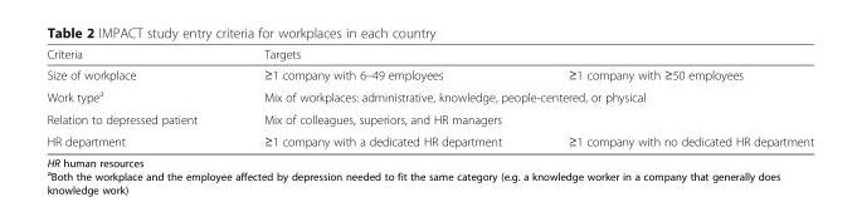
<table><thead><tr><td rowspan="2">Criteria Size of workplace</td><td colspan="2">Targets</td></tr><tr><td>≥1 company with 6–49 employees</td><td>≥1 company with ≥50 employees</td></tr></thead><tbody><tr><td>Work type<sup>a</sup></td><td colspan="2">Mix of workplaces: administrative, knowledge, people-centered, or physical</td></tr><tr><td>Relation to depressed patient</td><td colspan="2">Mix of colleagues, superiors, and HR managers</td></tr><tr><td>HR department</td><td>≥1 company with a dedicated HR department</td><td>≥1 company with no dedicated HR department</td></tr></tbody></table>